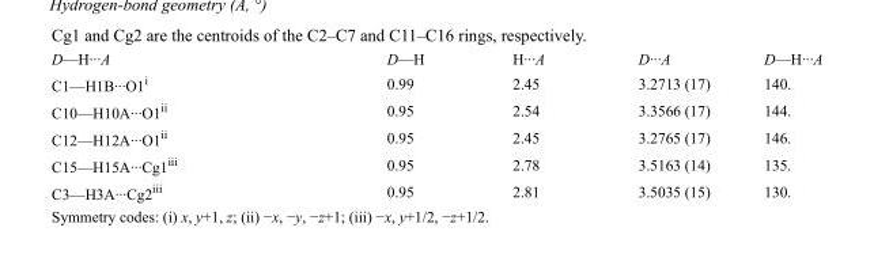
<table><tbody><tr><td>D—H···A</td><td>D—H</td><td>H···A</td><td>D···A</td><td>D—H···A</td></tr><tr><td>C1—H1B···O1<sup>i</sup></td><td>0.99</td><td>2.45</td><td>3.2713 (17)</td><td>140.</td></tr><tr><td>C10—H10A···O1<sup>ii</sup></td><td>0.95</td><td>2.54</td><td>3.3566 (17)</td><td>144.</td></tr><tr><td>C12—H12A···O1<sup>ii</sup></td><td>0.95</td><td>2.45</td><td>3.2765 (17)</td><td>146.</td></tr><tr><td>C15—H15A···Cg1<sup>iii</sup></td><td>0.95</td><td>2.78</td><td>3.5163 (14)</td><td>135.</td></tr><tr><td>C3—H3A···Cg2<sup>iii</sup></td><td>0.95</td><td>2.81</td><td>3.5035 (15)</td><td>130.</td></tr></tbody></table>